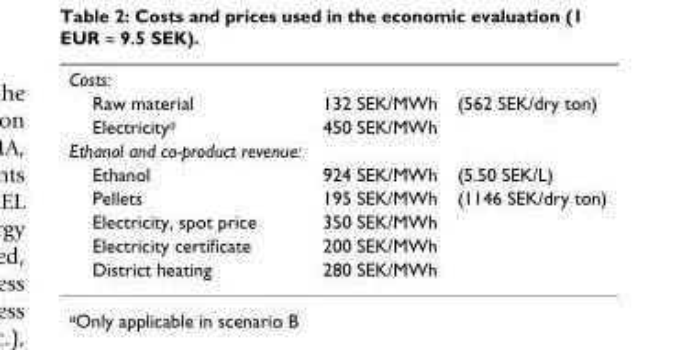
<table><tbody><tr><td colspan="3">Costs:</td></tr><tr><td>Raw material</td><td>132 SEK/MWh</td><td>(562 SEK/dry ton)</td></tr><tr><td>Electricity<sup>a</sup></td><td>450 SEK/MWh</td><td></td></tr><tr><td colspan="3">Ethanol and co-product revenue:</td></tr><tr><td>Ethanol</td><td>924 SEK/MWh</td><td>(5.50 SEK/L)</td></tr><tr><td>Pellets</td><td>195 SEK/MWh</td><td>(1146 SEK/dry ton)</td></tr><tr><td>Electricity, spot price</td><td>350 SEK/MWh</td><td></td></tr><tr><td>Electricity certificate</td><td>200 SEK/MWh</td><td></td></tr><tr><td>District heating</td><td>280 SEK/MWh</td><td></td></tr></tbody></table>